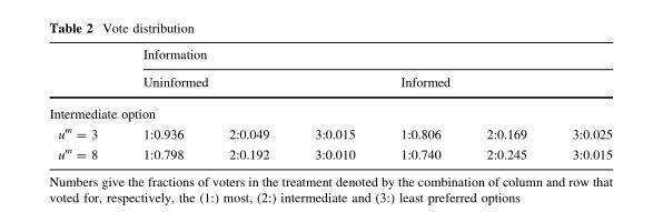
<table><thead><tr><td rowspan="2"></td><td colspan="6">Information</td></tr><tr><td colspan="3">Uninformed</td><td colspan="3">Informed</td></tr><tr><td colspan="7">Intermediate option</td></tr><tr><td>u<sup>m</sup> = 3</td><td>1:0.936</td><td>2:0.049</td><td>3:0.015</td><td>1:0.806</td><td>2:0.169</td><td>3:0.025</td></tr></thead><tbody><tr><td>u<sup>m</sup> = 8</td><td>1:0.798</td><td>2:0.192</td><td>3:0.010</td><td>1:0.740</td><td>2:0.245</td><td>3:0.015</td></tr></tbody></table>